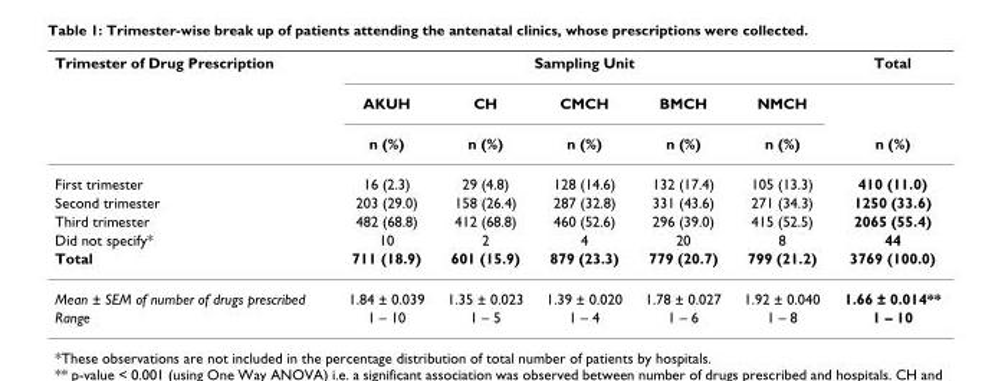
<table><thead><tr><td rowspan="3">Trimester of Drug Prescription</td><td colspan="5">Sampling Unit</td><td rowspan="3">Total n (%)</td></tr><tr><td rowspan="2">AKUH n (%)</td><td rowspan="2">CH n (%)</td><td rowspan="2">CMCH n (%)</td><td rowspan="2">BMCH n (%)</td><td rowspan="2">NMCH n (%)</td></tr><tr></tr></thead><tbody><tr><td>First trimester</td><td>16 (2.3)</td><td>29 (4.8)</td><td>128 (14.6)</td><td>132 (17.4)</td><td>105 (13.3)</td><td>410 (11.0)</td></tr><tr><td>Second trimester</td><td>203 (29.0)</td><td>158 (26.4)</td><td>287 (32.8)</td><td>331 (43.6)</td><td>271 (34.3)</td><td>1250 (33.6)</td></tr><tr><td>Third trimester</td><td>482 (68.8)</td><td>412 (68.8)</td><td>460 (52.6)</td><td>296 (39.0)</td><td>415 (52.5)</td><td>2065 (55.4)</td></tr><tr><td>Did not specify*</td><td>10</td><td>2</td><td>4</td><td>20</td><td>8</td><td>44</td></tr><tr><td>Total</td><td>711 (18.9)</td><td>601 (15.9)</td><td>879 (23.3)</td><td>779 (20.7)</td><td>799 (21.2)</td><td>3769 (100.0)</td></tr><tr><td>Mean ± SEM of number of drugs prescribed</td><td>1.84 ± 0.039</td><td>1.35 ± 0.023</td><td>1.39 ± 0.020</td><td>1.78 ± 0.027</td><td>1.92 ± 0.040</td><td>1.66 ± 0.014**</td></tr><tr><td>Range</td><td>1 – 10</td><td>1 – 5</td><td>1 – 4</td><td>1 – 6</td><td>1 – 8</td><td>1 – 10</td></tr></tbody></table>